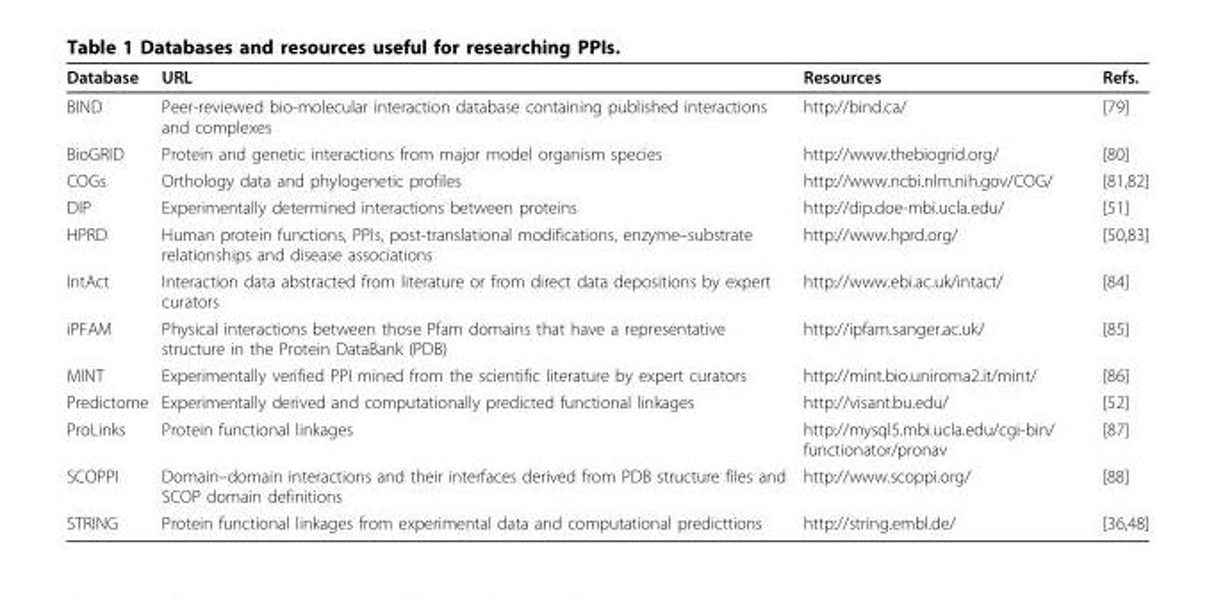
<table><thead><tr><td>Database</td><td>URL</td><td>Resources</td><td>Refs.</td></tr></thead><tbody><tr><td>BIND</td><td>Peer-reviewed bio-molecular interaction database containing published interactions and complexes</td><td>http://bind.ca/</td><td>[79]</td></tr><tr><td>BioGRID</td><td>Protein and genetic interactions from major model organism species</td><td>http://www.thebiogrid.org/</td><td>[80]</td></tr><tr><td>COGs</td><td>Orthology data and phylogenetic profiles</td><td>http://www.ncbi.nlm.nih.gov/COG/</td><td>[81,82]</td></tr><tr><td>DIP</td><td>Experimentally determined interactions between proteins</td><td>http://dip.doe-mbi.ucla.edu/</td><td>[51]</td></tr><tr><td>HPRD</td><td>Human protein functions, PPIs, post-translational modifications, enzyme–substrate relationships and disease associations</td><td>http://www.hprd.org/</td><td>[50,83]</td></tr><tr><td>IntAct</td><td>Interaction data abstracted from literature or from direct data depositions by expert curators</td><td>http://www.ebi.ac.uk/intact/</td><td>[84]</td></tr><tr><td>iPFAM</td><td>Physical interactions between those Pfam domains that have a representative structure in the Protein DataBank (PDB)</td><td>http://ipfam.sanger.ac.uk/</td><td>[85]</td></tr><tr><td>MINT</td><td>Experimentally verified PPI mined from the scientific literature by expert curators</td><td>http://mint.bio.uniroma2.it/mint/</td><td>[86]</td></tr><tr><td>Predictome</td><td>Experimentally derived and computationally predicted functional linkages</td><td>http://visant.bu.edu/</td><td>[52]</td></tr><tr><td>ProLinks</td><td>Protein functional linkages</td><td>http://mysql5.mbi.ucla.edu/cgi-bin/ functionator/pronav</td><td>[87]</td></tr><tr><td>SCOPPI</td><td>Domain–domain interactions and their interfaces derived from PDB structure files and SCOP domain definitions</td><td>http://www.scoppi.org/</td><td>[88]</td></tr><tr><td>STRING</td><td>Protein functional linkages from experimental data and computational predicttions</td><td>http://string.embl.de/</td><td>[36,48]</td></tr></tbody></table>